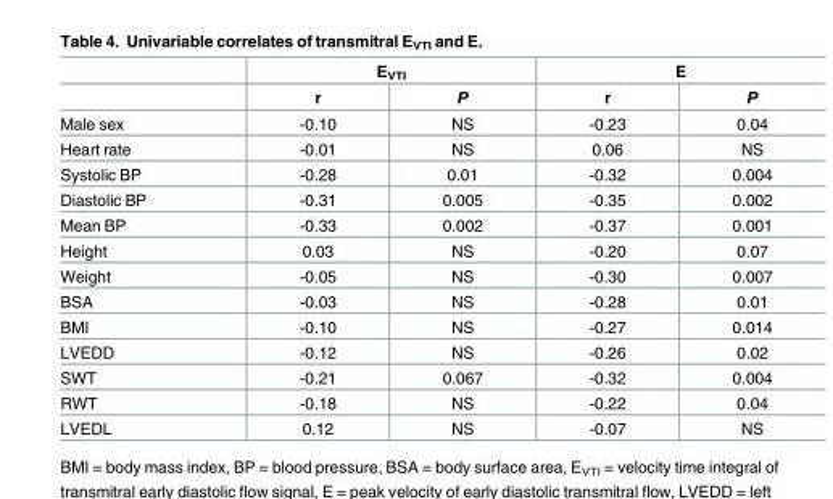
<table><thead><tr><td rowspan="2"></td><td colspan="2">E<sub>VTI</sub></td><td colspan="2">E</td></tr><tr><td>r</td><td>P</td><td>r</td><td>P</td></tr></thead><tbody><tr><td>Male sex</td><td>-0.10</td><td>NS</td><td>-0.23</td><td>0.04</td></tr><tr><td>Heart rate</td><td>-0.01</td><td>NS</td><td>0.06</td><td>NS</td></tr><tr><td>Systolic BP</td><td>-0.28</td><td>0.01</td><td>-0.32</td><td>0.004</td></tr><tr><td>Diastolic BP</td><td>-0.31</td><td>0.005</td><td>-0.35</td><td>0.002</td></tr><tr><td>Mean BP</td><td>-0.33</td><td>0.002</td><td>-0.37</td><td>0.001</td></tr><tr><td>Height</td><td>0.03</td><td>NS</td><td>-0.20</td><td>0.07</td></tr><tr><td>Weight</td><td>-0.05</td><td>NS</td><td>-0.30</td><td>0.007</td></tr><tr><td>BSA</td><td>-0.03</td><td>NS</td><td>-0.28</td><td>0.01</td></tr><tr><td>BMI</td><td>-0.10</td><td>NS</td><td>-0.27</td><td>0.014</td></tr><tr><td>LVEDD</td><td>-0.12</td><td>NS</td><td>-0.26</td><td>0.02</td></tr><tr><td>SWT</td><td>-0.21</td><td>0.067</td><td>-0.32</td><td>0.004</td></tr><tr><td>RWT</td><td>-0.18</td><td>NS</td><td>-0.22</td><td>0.04</td></tr><tr><td>LVEDL</td><td>0.12</td><td>NS</td><td>-0.07</td><td>NS</td></tr></tbody></table>